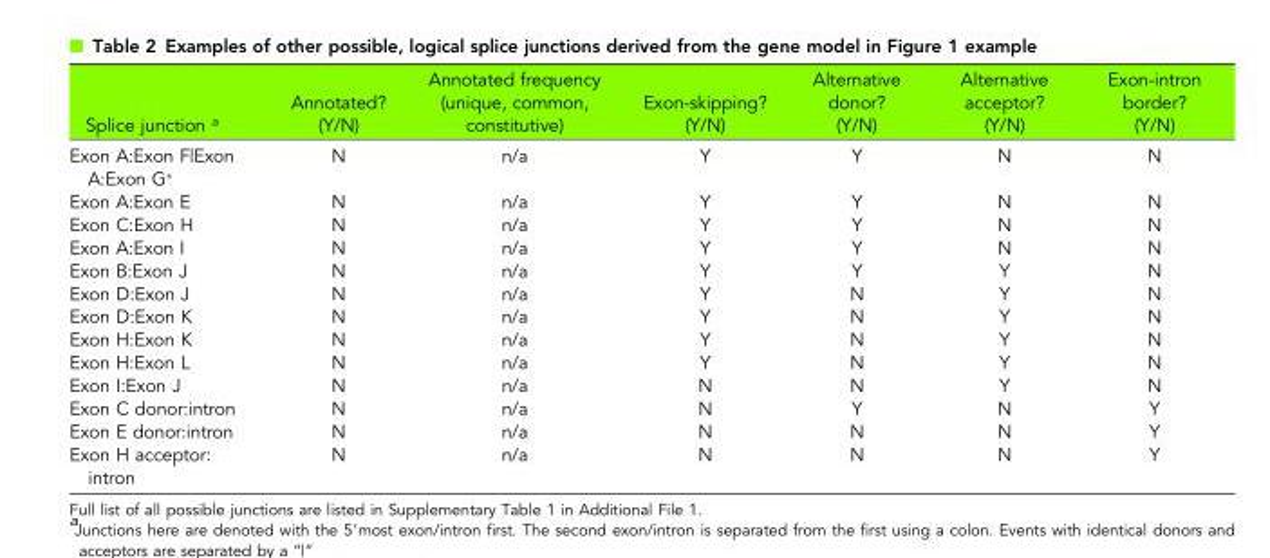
<table><thead><tr><td>Splice junction <sup>a</sup></td><td>Annotated? (Y/N)</td><td>Annotated frequency (unique, common, constitutive)</td><td>Exon-skipping? (Y/N)</td><td>Alternative donor? (Y/N)</td><td>Alternative acceptor? (Y/N)</td><td>Exon-intron border? (Y/N)</td></tr></thead><tbody><tr><td>Exon A:Exon F|Exon A:Exon G*</td><td>N</td><td>n/a</td><td>Y</td><td>Y</td><td>N</td><td>N</td></tr><tr><td>Exon A:Exon E</td><td>N</td><td>n/a</td><td>Y</td><td>Y</td><td>N</td><td>N</td></tr><tr><td>Exon C:Exon H</td><td>N</td><td>n/a</td><td>Y</td><td>Y</td><td>N</td><td>N</td></tr><tr><td>Exon A:Exon I</td><td>N</td><td>n/a</td><td>Y</td><td>Y</td><td>N</td><td>N</td></tr><tr><td>Exon B:Exon J</td><td>N</td><td>n/a</td><td>Y</td><td>Y</td><td>Y</td><td>N</td></tr><tr><td>Exon D:Exon J</td><td>N</td><td>n/a</td><td>Y</td><td>N</td><td>Y</td><td>N</td></tr><tr><td>Exon D:Exon K</td><td>N</td><td>n/a</td><td>Y</td><td>N</td><td>Y</td><td>N</td></tr><tr><td>Exon H:Exon K</td><td>N</td><td>n/a</td><td>Y</td><td>N</td><td>Y</td><td>N</td></tr><tr><td>Exon H:Exon L</td><td>N</td><td>n/a</td><td>Y</td><td>N</td><td>Y</td><td>N</td></tr><tr><td>Exon I:Exon J</td><td>N</td><td>n/a</td><td>N</td><td>N</td><td>Y</td><td>N</td></tr><tr><td>Exon C donor:intron</td><td>N</td><td>n/a</td><td>N</td><td>Y</td><td>N</td><td>Y</td></tr><tr><td>Exon E donor:intron</td><td>N</td><td>n/a</td><td>N</td><td>N</td><td>N</td><td>Y</td></tr><tr><td>Exon H acceptor: intron</td><td>N</td><td>n/a</td><td>N</td><td>N</td><td>N</td><td>Y</td></tr></tbody></table>